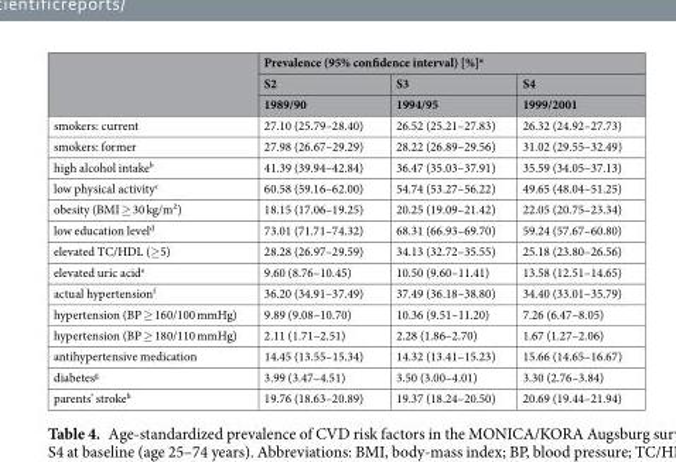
<table><thead><tr><td rowspan="3"></td><td colspan="3">Prevalence (95% confidence interval) [%]<sup>a</sup></td></tr><tr><td rowspan="2">S2 1989/90</td><td rowspan="2">S3 1994/95</td><td rowspan="2">S4 1999/2001</td></tr><tr></tr></thead><tbody><tr><td>smokers: current</td><td>27.10 (25.79–28.40)</td><td>26.52 (25.21–27.83)</td><td>26.32 (24.92–27.73)</td></tr><tr><td>smokers: former</td><td>27.98 (26.67–29.29)</td><td>28.22 (26.89–29.56)</td><td>31.02 (29.55–32.49)</td></tr><tr><td>high alcohol intake<sup>b</sup></td><td>41.39 (39.94–42.84)</td><td>36.47 (35.03–37.91)</td><td>35.59 (34.05–37.13)</td></tr><tr><td>low physical activity<sup>c</sup></td><td>60.58 (59.16–62.00)</td><td>54.74 (53.27–56.22)</td><td>49.65 (48.04–51.25)</td></tr><tr><td>obesity (BMI ≥ 30 kg/m²)</td><td>18.15 (17.06–19.25)</td><td>20.25 (19.09–21.42)</td><td>22.05 (20.75–23.34)</td></tr><tr><td>low education level<sup>d</sup></td><td>73.01 (71.71–74.32)</td><td>68.31 (66.93–69.70)</td><td>59.24 (57.67–60.80)</td></tr><tr><td>elevated TC/HDL (≥5)</td><td>28.28 (26.97–29.59)</td><td>34.13 (32.72–35.55)</td><td>25.18 (23.80–26.56)</td></tr><tr><td>elevated uric acid<sup>e</sup></td><td>9.60 (8.76–10.45)</td><td>10.50 (9.60–11.41)</td><td>13.58 (12.51–14.65)</td></tr><tr><td>actual hypertension<sup>f</sup></td><td>36.20 (34.91–37.49)</td><td>37.49 (36.18–38.80)</td><td>34.40 (33.01–35.79)</td></tr><tr><td>hypertension (BP ≥ 160/100 mmHg)</td><td>9.89 (9.08–10.70)</td><td>10.36 (9.51–11.20)</td><td>7.26 (6.47–8.05)</td></tr><tr><td>hypertension (BP ≥ 180/110 mmHg)</td><td>2.11 (1.71–2.51)</td><td>2.28 (1.86–2.70)</td><td>1.67 (1.27–2.06)</td></tr><tr><td>antihypertensive medication</td><td>14.45 (13.55–15.34)</td><td>14.32 (13.41–15.23)</td><td>15.66 (14.65–16.67)</td></tr><tr><td>diabetes<sup>g</sup></td><td>3.99 (3.47–4.51)</td><td>3.50 (3.00–4.01)</td><td>3.30 (2.76–3.84)</td></tr><tr><td>parents’ stroke<sup>h</sup></td><td>19.76 (18.63–20.89)</td><td>19.37 (18.24–20.50)</td><td>20.69 (19.44–21.94)</td></tr></tbody></table>